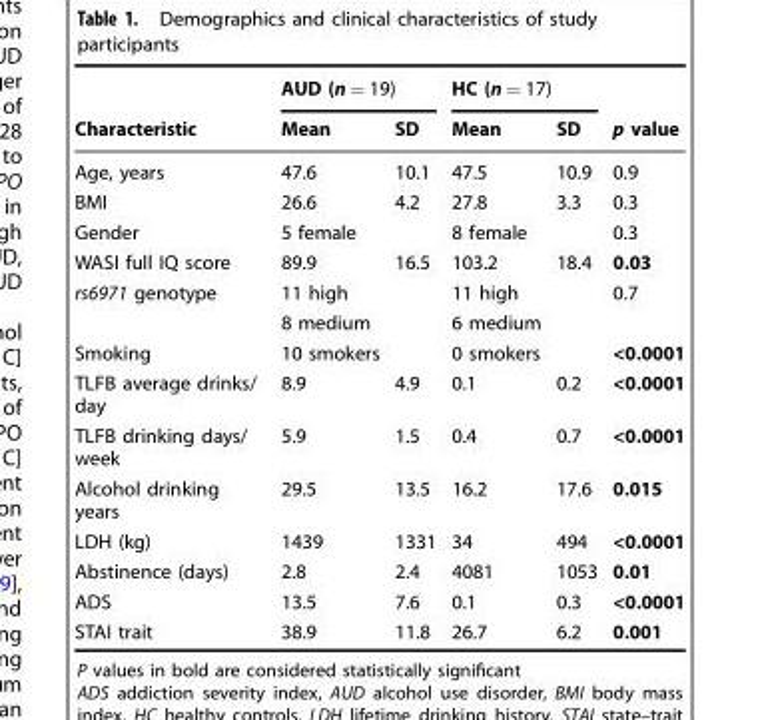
<table><thead><tr><td rowspan="2">Characteristic</td><td colspan="2">AUD (n = 19)</td><td colspan="2">HC (n = 17)</td><td rowspan="2">p value</td></tr><tr><td>Mean</td><td>SD</td><td>Mean</td><td>SD</td></tr></thead><tbody><tr><td>Age, years</td><td>47.6</td><td>10.1</td><td>47.5</td><td>10.9</td><td>0.9</td></tr><tr><td>BMI</td><td>26.6</td><td>4.2</td><td>27.8</td><td>3.3</td><td>0.3</td></tr><tr><td>Gender</td><td>5 female</td><td></td><td>8 female</td><td></td><td>0.3</td></tr><tr><td>WASI full IQ score</td><td>89.9</td><td>16.5</td><td>103.2</td><td>18.4</td><td>0.03</td></tr><tr><td rowspan="2">rs6971 genotype</td><td>11 high</td><td></td><td>11 high</td><td rowspan="2"></td><td rowspan="2">0.7</td></tr><tr><td>8 medium</td><td></td><td>6 medium</td></tr><tr><td>Smoking</td><td>10 smokers</td><td></td><td>0 smokers</td><td></td><td>&lt;0.0001</td></tr><tr><td>TLFB average drinks/ day</td><td>8.9</td><td>4.9</td><td>0.1</td><td>0.2</td><td>&lt;0.0001</td></tr><tr><td>TLFB drinking days/ week</td><td>5.9</td><td>1.5</td><td>0.4</td><td>0.7</td><td>&lt;0.0001</td></tr><tr><td>Alcohol drinking years</td><td>29.5</td><td>13.5</td><td>16.2</td><td>17.6</td><td>0.015</td></tr><tr><td>LDH (kg)</td><td>1439</td><td>1331</td><td>34</td><td>494</td><td>&lt;0.0001</td></tr><tr><td>Abstinence (days)</td><td>2.8</td><td>2.4</td><td>4081</td><td>1053</td><td>0.01</td></tr><tr><td>ADS</td><td>13.5</td><td>7.6</td><td>0.1</td><td>0.3</td><td>&lt;0.0001</td></tr><tr><td>STAI trait</td><td>38.9</td><td>11.8</td><td>26.7</td><td>6.2</td><td>0.001</td></tr></tbody></table>